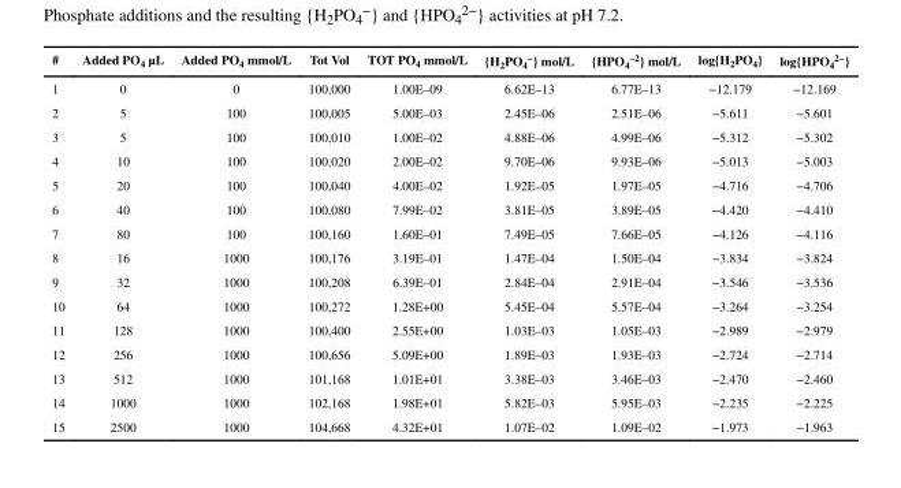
<table><thead><tr><td>#</td><td>Added PO<sub>4</sub> μL</td><td>Added PO<sub>4</sub> mmol/L</td><td>Tot Vol</td><td>TOT PO<sub>4</sub> mmol/L</td><td>{H<sub>2</sub>PO<sub>4</sub><sup>−</sup>} mol/L</td><td>{HPO<sub>4</sub><sup>−2</sup>} mol/L</td><td>log{H<sub>2</sub>PO<sub>4</sub>}</td><td>log{HPO<sub>4</sub><sup>2−</sup>}</td></tr></thead><tbody><tr><td>1</td><td>0</td><td>0</td><td>100,000</td><td>1.00E–09</td><td>6.62E–13</td><td>6.77E–13</td><td>−12.179</td><td>−12.169</td></tr><tr><td>2</td><td>5</td><td>100</td><td>100,005</td><td>5.00E–03</td><td>2.45E–06</td><td>2.51E–06</td><td>−5.611</td><td>−5.601</td></tr><tr><td>3</td><td>5</td><td>100</td><td>100,010</td><td>1.00E–02</td><td>4.88E–06</td><td>4.99E–06</td><td>−5.312</td><td>−5.302</td></tr><tr><td>4</td><td>10</td><td>100</td><td>100,020</td><td>2.00E–02</td><td>9.70E–06</td><td>9.93E–06</td><td>−5.013</td><td>−5.003</td></tr><tr><td>5</td><td>20</td><td>100</td><td>100,040</td><td>4.00E–02</td><td>1.92E–05</td><td>1.97E–05</td><td>−4.716</td><td>−4.706</td></tr><tr><td>6</td><td>40</td><td>100</td><td>100,080</td><td>7.99E–02</td><td>3.81E–05</td><td>3.89E–05</td><td>−4.420</td><td>−4.410</td></tr><tr><td>7</td><td>80</td><td>100</td><td>100,160</td><td>1.60E–01</td><td>7.49E–05</td><td>7.66E–05</td><td>−4.126</td><td>−4.116</td></tr><tr><td>8</td><td>16</td><td>1000</td><td>100,176</td><td>3.19E–01</td><td>1.47E–04</td><td>1.50E–04</td><td>−3.834</td><td>−3.824</td></tr><tr><td>9</td><td>32</td><td>1000</td><td>100,208</td><td>6.39E–01</td><td>2.84E–04</td><td>2.91E–04</td><td>−3.546</td><td>−3.536</td></tr><tr><td>10</td><td>64</td><td>1000</td><td>100,272</td><td>1.28E+00</td><td>5.45E–04</td><td>5.57E–04</td><td>−3.264</td><td>−3.254</td></tr><tr><td>11</td><td>128</td><td>1000</td><td>100,400</td><td>2.55E+00</td><td>1.03E–03</td><td>1.05E–03</td><td>−2.989</td><td>−2.979</td></tr><tr><td>12</td><td>256</td><td>1000</td><td>100,656</td><td>5.09E+00</td><td>1.89E–03</td><td>1.93E–03</td><td>−2.724</td><td>−2.714</td></tr><tr><td>13</td><td>512</td><td>1000</td><td>101,168</td><td>1.01E+01</td><td>3.38E–03</td><td>3.46E–03</td><td>−2.470</td><td>−2.460</td></tr><tr><td>14</td><td>1000</td><td>1000</td><td>102,168</td><td>1.98E+01</td><td>5.82E–03</td><td>5.95E–03</td><td>−2.235</td><td>−2.225</td></tr><tr><td>15</td><td>2500</td><td>1000</td><td>104,668</td><td>4.32E+01</td><td>1.07E–02</td><td>1.09E–02</td><td>−1.973</td><td>−1.963</td></tr></tbody></table>